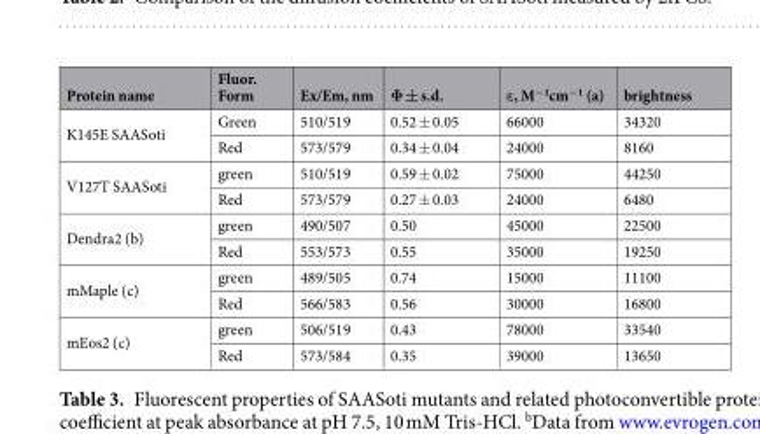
<table><thead><tr><td>Protein name</td><td>Fluor. Form</td><td>Ex/Em, nm</td><td>Φ ± s.d.</td><td>ε, M<sup>−1</sup>cm<sup>−1</sup> (a)</td><td>brightness</td></tr></thead><tbody><tr><td rowspan="2">K145E SAASoti</td><td>Green</td><td>510/519</td><td>0.52 ± 0.05</td><td>66000</td><td>34320</td></tr><tr><td>Red</td><td>573/579</td><td>0.34 ± 0.04</td><td>24000</td><td>8160</td></tr><tr><td rowspan="2">V127T SAASoti</td><td>green</td><td>510/519</td><td>0.59 ± 0.02</td><td>75000</td><td>44250</td></tr><tr><td>Red</td><td>573/579</td><td>0.27 ± 0.03</td><td>24000</td><td>6480</td></tr><tr><td rowspan="2">Dendra2 (b)</td><td>green</td><td>490/507</td><td>0.50</td><td>45000</td><td>22500</td></tr><tr><td>Red</td><td>553/573</td><td>0.55</td><td>35000</td><td>19250</td></tr><tr><td rowspan="2">mMaple (c)</td><td>green</td><td>489/505</td><td>0.74</td><td>15000</td><td>11100</td></tr><tr><td>Red</td><td>566/583</td><td>0.56</td><td>30000</td><td>16800</td></tr><tr><td rowspan="2">mEos2 (c)</td><td>green</td><td>506/519</td><td>0.43</td><td>78000</td><td>33540</td></tr><tr><td>Red</td><td>573/584</td><td>0.35</td><td>39000</td><td>13650</td></tr></tbody></table>